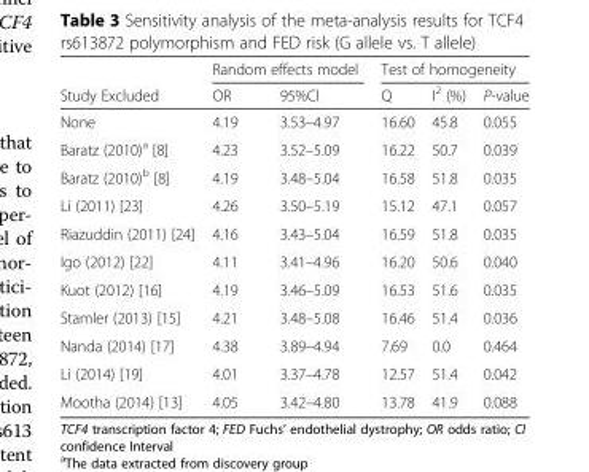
<table><thead><tr><td rowspan="2">Study Excluded</td><td colspan="2">Random effects model</td><td colspan="3">Test of homogeneity</td></tr><tr><td>OR</td><td>95%CI</td><td>Q</td><td>I<sup>2</sup> (%)</td><td>P-value</td></tr></thead><tbody><tr><td>None</td><td>4.19</td><td>3.53–4.97</td><td>16.60</td><td>45.8</td><td>0.055</td></tr><tr><td>Baratz (2010)<sup>a</sup> [8]</td><td>4.23</td><td>3.52–5.09</td><td>16.22</td><td>50.7</td><td>0.039</td></tr><tr><td>Baratz (2010)<sup>b</sup> [8]</td><td>4.19</td><td>3.48–5.04</td><td>16.58</td><td>51.8</td><td>0.035</td></tr><tr><td>Li (2011) [23]</td><td>4.26</td><td>3.50–5.19</td><td>15.12</td><td>47.1</td><td>0.057</td></tr><tr><td>Riazuddin (2011) [24]</td><td>4.16</td><td>3.43–5.04</td><td>16.59</td><td>51.8</td><td>0.035</td></tr><tr><td>Igo (2012) [22]</td><td>4.11</td><td>3.41–4.96</td><td>16.20</td><td>50.6</td><td>0.040</td></tr><tr><td>Kuot (2012) [16]</td><td>4.19</td><td>3.46–5.09</td><td>16.53</td><td>51.6</td><td>0.035</td></tr><tr><td>Stamler (2013) [15]</td><td>4.21</td><td>3.48–5.08</td><td>16.46</td><td>51.4</td><td>0.036</td></tr><tr><td>Nanda (2014) [17]</td><td>4.38</td><td>3.89–4.94</td><td>7.69</td><td>0.0</td><td>0.464</td></tr><tr><td>Li (2014) [19]</td><td>4.01</td><td>3.37–4.78</td><td>12.57</td><td>51.4</td><td>0.042</td></tr><tr><td>Mootha (2014) [13]</td><td>4.05</td><td>3.42–4.80</td><td>13.78</td><td>41.9</td><td>0.088</td></tr></tbody></table>